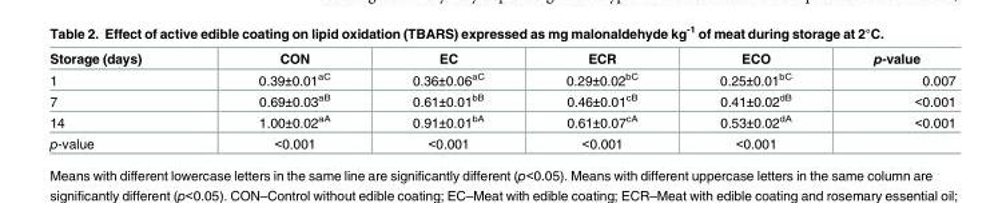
<table><thead><tr><td>Storage (days)</td><td>CON</td><td>EC</td><td>ECR</td><td>ECO</td><td>p-value</td></tr></thead><tbody><tr><td>1</td><td>0.39±0.01<sup>aC</sup></td><td>0.36±0.06<sup>aC</sup></td><td>0.29±0.02<sup>bC</sup></td><td>0.25±0.01<sup>bC</sup></td><td>0.007</td></tr><tr><td>7</td><td>0.69±0.03<sup>aB</sup></td><td>0.61±0.01<sup>bB</sup></td><td>0.46±0.01<sup>cB</sup></td><td>0.41±0.02<sup>dB</sup></td><td>&lt;0.001</td></tr><tr><td>14</td><td>1.00±0.02<sup>aA</sup></td><td>0.91±0.01<sup>bA</sup></td><td>0.61±0.07<sup>cA</sup></td><td>0.53±0.02<sup>dA</sup></td><td>&lt;0.001</td></tr><tr><td>p-value</td><td>&lt;0.001</td><td>&lt;0.001</td><td>&lt;0.001</td><td>&lt;0.001</td><td></td></tr></tbody></table>